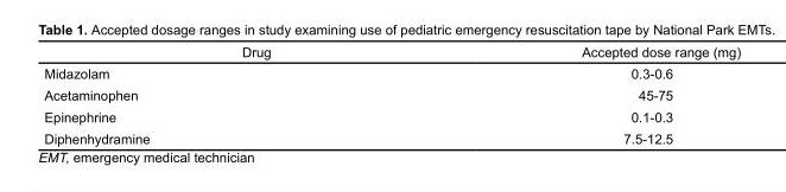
<table><thead><tr><td>Drug</td><td>Accepted dose range (mg)</td></tr></thead><tbody><tr><td>Midazolam</td><td>0.3-0.6</td></tr><tr><td>Acetaminophen</td><td>45-75</td></tr><tr><td>Epinephrine</td><td>0.1-0.3</td></tr><tr><td>Diphenhydramine</td><td>7.5-12.5</td></tr></tbody></table>